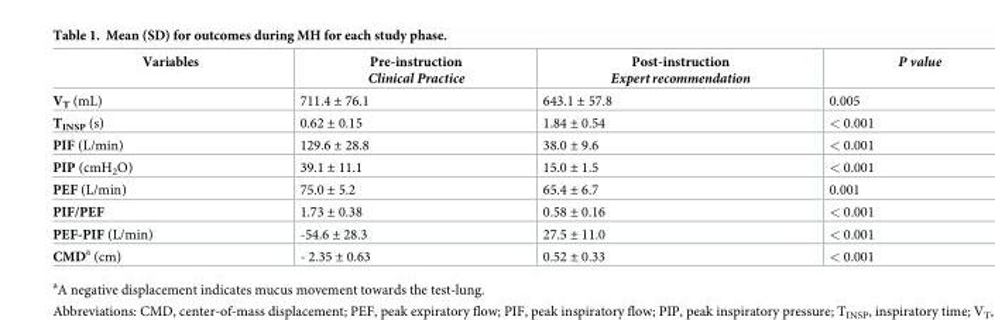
<table><thead><tr><td>Variables</td><td>Pre-instruction Clinical Practice</td><td>Post-instruction Expert recommendation</td><td>P value</td></tr></thead><tbody><tr><td>V<sub>T</sub> (mL)</td><td>711.4 ± 76.1</td><td>643.1 ± 57.8</td><td>0.005</td></tr><tr><td>T<sub>INSP</sub> (s)</td><td>0.62 ± 0.15</td><td>1.84 ± 0.54</td><td>&lt; 0.001</td></tr><tr><td>PIF (L/min)</td><td>129.6 ± 28.8</td><td>38.0 ± 9.6</td><td>&lt; 0.001</td></tr><tr><td>PIP (cmH<sub>2</sub>O)</td><td>39.1 ± 11.1</td><td>15.0 ± 1.5</td><td>&lt; 0.001</td></tr><tr><td>PEF (L/min)</td><td>75.0 ± 5.2</td><td>65.4 ± 6.7</td><td>0.001</td></tr><tr><td>PIF/PEF</td><td>1.73 ± 0.38</td><td>0.58 ± 0.16</td><td>&lt; 0.001</td></tr><tr><td>PEF-PIF (L/min)</td><td>-54.6 ± 28.3</td><td>27.5 ± 11.0</td><td>&lt; 0.001</td></tr><tr><td>CMD<sup>a</sup> (cm)</td><td>- 2.35 ± 0.63</td><td>0.52 ± 0.33</td><td>&lt; 0.001</td></tr></tbody></table>